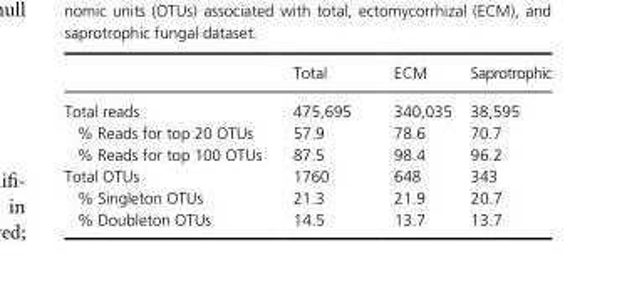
<table><thead><tr><td></td><td>Total</td><td>ECM</td><td>Saprotrophic</td></tr></thead><tbody><tr><td>Total reads</td><td>475,695</td><td>340,035</td><td>38,595</td></tr><tr><td>% Reads for top 20 OTUs</td><td>57.9</td><td>78.6</td><td>70.7</td></tr><tr><td>% Reads for top 100 OTUs</td><td>87.5</td><td>98.4</td><td>96.2</td></tr><tr><td>Total OTUs</td><td>1760</td><td>648</td><td>343</td></tr><tr><td>% Singleton OTUs</td><td>21.3</td><td>21.9</td><td>20.7</td></tr><tr><td>% Doubleton OTUs</td><td>14.5</td><td>13.7</td><td>13.7</td></tr></tbody></table>